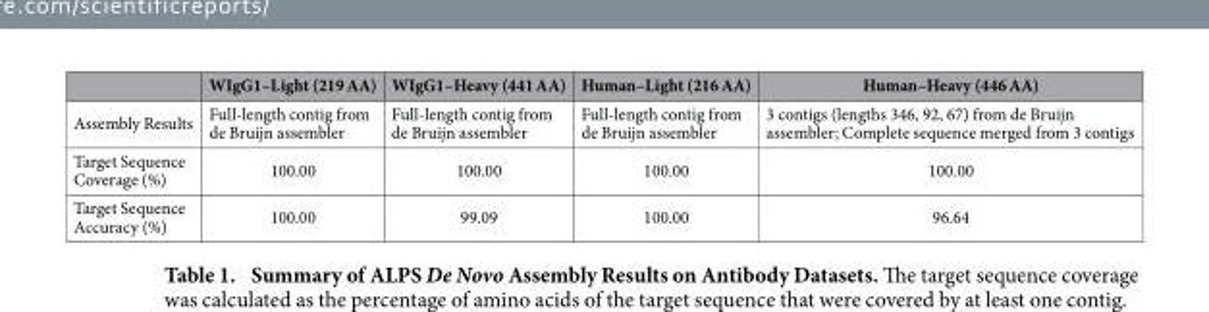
<table><thead><tr><td></td><td>WIgG1–Light (219 AA)</td><td>WIgG1–Heavy (441 AA)</td><td>Human–Light (216 AA)</td><td>Human–Heavy (446 AA)</td></tr></thead><tbody><tr><td>Assembly Results</td><td>Full-length contig from de Bruijn assembler</td><td>Full-length contig from de Bruijn assembler</td><td>Full-length contig from de Bruijn assembler</td><td>3 contigs (lengths 346, 92, 67) from de Bruijn assembler; Complete sequence merged from 3 contigs</td></tr><tr><td>Target Sequence Coverage (%)</td><td>100.00</td><td>100.00</td><td>100.00</td><td>100.00</td></tr><tr><td>Target Sequence Accuracy (%)</td><td>100.00</td><td>99.09</td><td>100.00</td><td>96.64</td></tr></tbody></table>